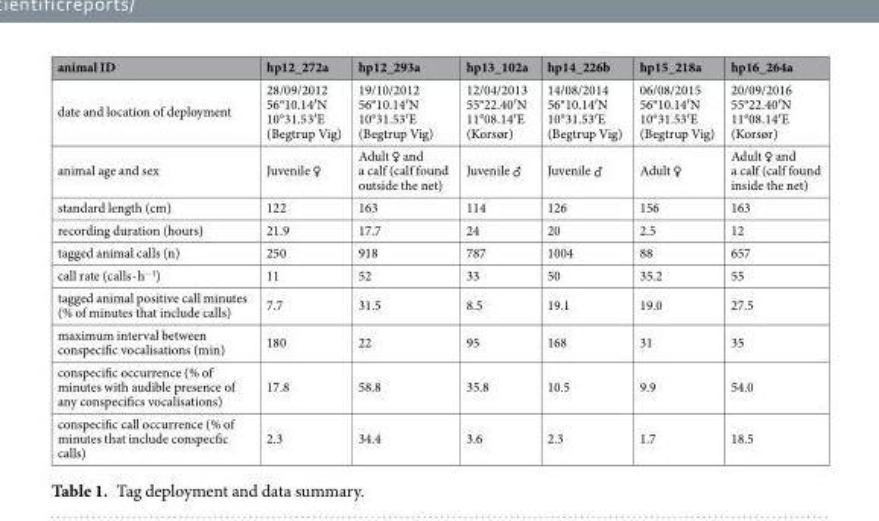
<table><thead><tr><td>animal ID</td><td>hp12_272a</td><td>hp12_293a</td><td>hp13_102a</td><td>hp14_226b</td><td>hp15_218a</td><td>hp16_264a</td></tr></thead><tbody><tr><td>date and location of deployment</td><td>28/09/2012 56°10.14′N 10°31.53′E (Begtrup Vig)</td><td>19/10/2012 56°10.14′N 10°31.53′E (Begtrup Vig)</td><td>12/04/2013 55°22.40′N 11°08.14′E (Korsør)</td><td>14/08/2014 56°10.14′N 10°31.53′E (Begtrup Vig)</td><td>06/08/2015 56°10.14′N 10°31.53′E (Begtrup Vig)</td><td>20/09/2016 55°22.40′N 11°08.14′E (Korsør)</td></tr><tr><td>animal age and sex</td><td>Juvenile ♀</td><td>Adult ♀ and a calf (calf found outside the net)</td><td>Juvenile ♂</td><td>Juvenile ♂</td><td>Adult ♀</td><td>Adult ♀ and a calf (calf found inside the net)</td></tr><tr><td>standard length (cm)</td><td>122</td><td>163</td><td>114</td><td>126</td><td>156</td><td>163</td></tr><tr><td>recording duration (hours)</td><td>21.9</td><td>17.7</td><td>24</td><td>20</td><td>2.5</td><td>12</td></tr><tr><td>tagged animal calls (n)</td><td>250</td><td>918</td><td>787</td><td>1004</td><td>88</td><td>657</td></tr><tr><td>call rate (calls · h<sup>−1</sup>)</td><td>11</td><td>52</td><td>33</td><td>50</td><td>35.2</td><td>55</td></tr><tr><td>tagged animal positive call minutes (% of minutes that include calls)</td><td>7.7</td><td>31.5</td><td>8.5</td><td>19.1</td><td>19.0</td><td>27.5</td></tr><tr><td>maximum interval between conspecific vocalisations (min)</td><td>180</td><td>22</td><td>95</td><td>168</td><td>31</td><td>35</td></tr><tr><td>conspecific occurrence (% of minutes with audible presence of any conspecifics vocalisations)</td><td>17.8</td><td>58.8</td><td>35.8</td><td>10.5</td><td>9.9</td><td>54.0</td></tr><tr><td>conspecific call occurrence (% of minutes that include conspecfic calls)</td><td>2.3</td><td>34.4</td><td>3.6</td><td>2.3</td><td>1.7</td><td>18.5</td></tr></tbody></table>